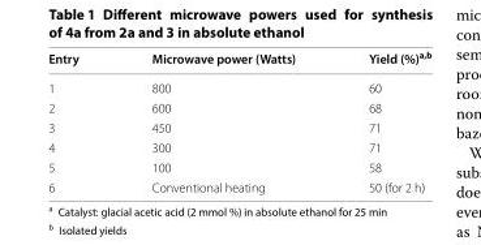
<table><thead><tr><td>Entry</td><td>Microwave power (Watts)</td><td>Yield (%)<sup>a,b</sup></td></tr></thead><tbody><tr><td>1</td><td>800</td><td>60</td></tr><tr><td>2</td><td>600</td><td>68</td></tr><tr><td>3</td><td>450</td><td>71</td></tr><tr><td>4</td><td>300</td><td>71</td></tr><tr><td>5</td><td>100</td><td>58</td></tr><tr><td>6</td><td>Conventional heating</td><td>50 (for 2 h)</td></tr></tbody></table>